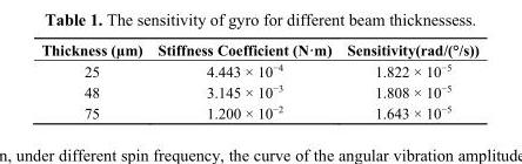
<table><thead><tr><td>Thickness (µm)</td><td>Stiffness Coefficient (N·m)</td><td>Sensitivity(rad/(°/s))</td></tr></thead><tbody><tr><td>25</td><td>4.443 × 10<sup>−4</sup></td><td>1.822 × 10<sup>−5</sup></td></tr><tr><td>48</td><td>3.145 × 10<sup>−3</sup></td><td>1.808 × 10<sup>−5</sup></td></tr><tr><td>75</td><td>1.200 × 10<sup>−2</sup></td><td>1.643 × 10<sup>−5</sup></td></tr></tbody></table>